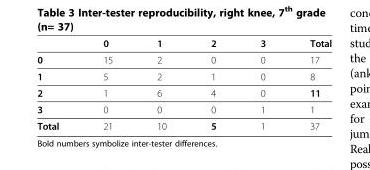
<table><thead><tr><td></td><td>0</td><td>1</td><td>2</td><td>3</td><td>Total</td></tr></thead><tbody><tr><td>0</td><td>15</td><td>2</td><td>0</td><td>0</td><td>17</td></tr><tr><td>1</td><td>5</td><td>2</td><td>1</td><td>0</td><td>8</td></tr><tr><td>2</td><td>1</td><td>6</td><td>4</td><td>0</td><td>11</td></tr><tr><td>3</td><td>0</td><td>0</td><td>0</td><td>1</td><td>1</td></tr><tr><td>Total</td><td>21</td><td>10</td><td>5</td><td>1</td><td>37</td></tr></tbody></table>